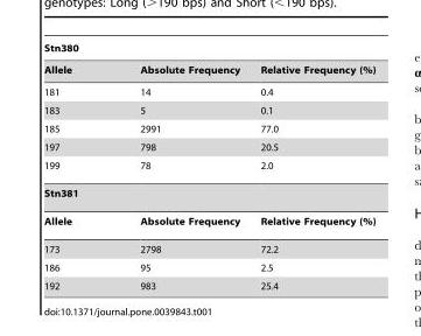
<table><thead><tr><td colspan="3">Stn380</td></tr><tr><td>Allele</td><td>Absolute Frequency</td><td>Relative Frequency (%)</td></tr></thead><tbody><tr><td>181</td><td>14</td><td>0.4</td></tr><tr><td>183</td><td>5</td><td>0.1</td></tr><tr><td>185</td><td>2991</td><td>77.0</td></tr><tr><td>197</td><td>798</td><td>20.5</td></tr><tr><td>199</td><td>78</td><td>2.0</td></tr><tr><td colspan="3">Stn381</td></tr><tr><td>Allele</td><td>Absolute Frequency</td><td>Relative Frequency (%)</td></tr><tr><td>173</td><td>2798</td><td>72.2</td></tr><tr><td>186</td><td>95</td><td>2.5</td></tr><tr><td>192</td><td>983</td><td>25.4</td></tr></tbody></table>